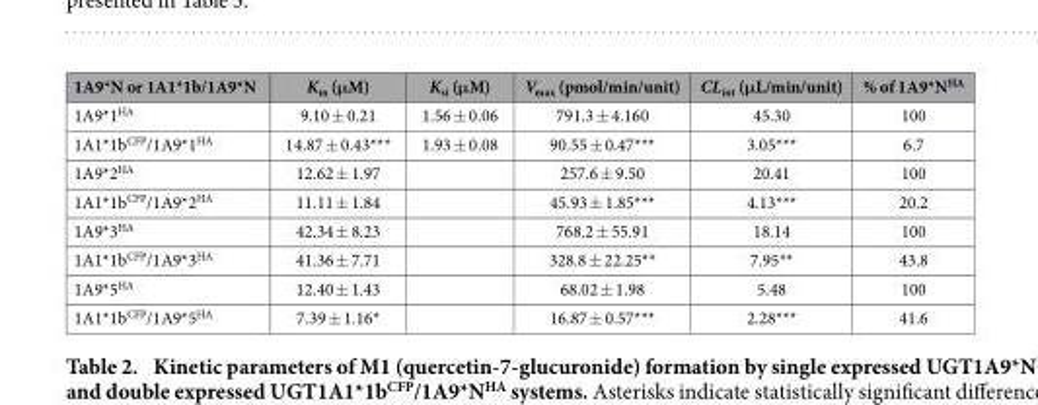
<table><thead><tr><td>1A9*N or 1A1*1b/1A9*N</td><td>K<sub>m</sub> (μM)</td><td>K<sub>si</sub> (μM)</td><td>V<sub>max</sub> (pmol/min/unit)</td><td>CL<sub>int</sub> (μL/min/unit)</td><td>% of 1A9*N<sup>HA</sup></td></tr></thead><tbody><tr><td>1A9*1<sup>HA</sup></td><td>9.10 ± 0.21</td><td>1.56 ± 0.06</td><td>791.3 ± 4.160</td><td>45.30</td><td>100</td></tr><tr><td>1A1*1b<sup>CFP</sup>/1A9*1<sup>HA</sup></td><td>14.87 ± 0.43***</td><td>1.93 ± 0.08</td><td>90.55 ± 0.47***</td><td>3.05***</td><td>6.7</td></tr><tr><td>1A9*2<sup>HA</sup></td><td>12.62 ± 1.97</td><td></td><td>257.6 ± 9.50</td><td>20.41</td><td>100</td></tr><tr><td>1A1*1b<sup>CFP</sup>/1A9*2<sup>HA</sup></td><td>11.11 ± 1.84</td><td></td><td>45.93 ± 1.85***</td><td>4.13***</td><td>20.2</td></tr><tr><td>1A9*3<sup>HA</sup></td><td>42.34 ± 8.23</td><td></td><td>768.2 ± 55.91</td><td>18.14</td><td>100</td></tr><tr><td>1A1*1b<sup>CFP</sup>/1A9*3<sup>HA</sup></td><td>41.36 ± 7.71</td><td></td><td>328.8 ± 22.25**</td><td>7.95**</td><td>43.8</td></tr><tr><td>1A9*5<sup>HA</sup></td><td>12.40 ± 1.43</td><td></td><td>68.02 ± 1.98</td><td>5.48</td><td>100</td></tr><tr><td>1A1*1b<sup>CFP</sup>/1A9*5<sup>HA</sup></td><td>7.39 ± 1.16*</td><td></td><td>16.87 ± 0.57***</td><td>2.28***</td><td>41.6</td></tr></tbody></table>